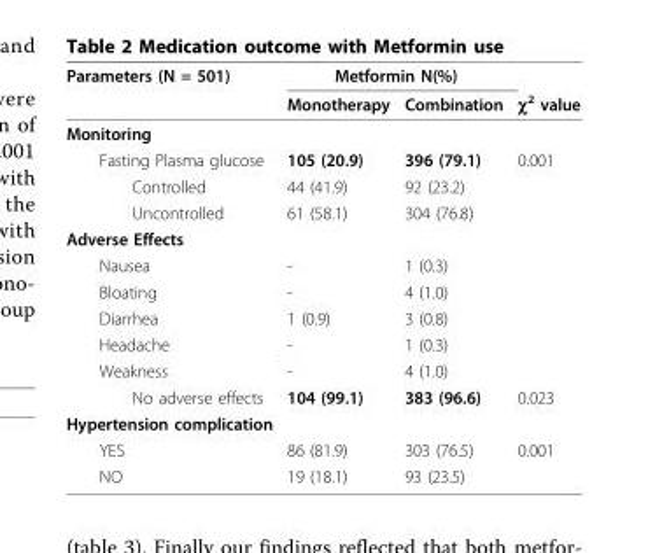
<table><thead><tr><td rowspan="2">Parameters (N = 501)</td><td colspan="2">Metformin N(%)</td><td rowspan="2">χ<sup>2</sup> value</td></tr><tr><td>Monotherapy</td><td>Combination</td></tr></thead><tbody><tr><td colspan="4">Monitoring</td></tr><tr><td>Fasting Plasma glucose</td><td>105 (20.9)</td><td>396 (79.1)</td><td>0.001</td></tr><tr><td>Controlled</td><td>44 (41.9)</td><td>92 (23.2)</td><td></td></tr><tr><td>Uncontrolled</td><td>61 (58.1)</td><td>304 (76.8)</td><td></td></tr><tr><td colspan="4">Adverse Effects</td></tr><tr><td>Nausea</td><td>-</td><td>1 (0.3)</td><td></td></tr><tr><td>Bloating</td><td>-</td><td>4 (1.0)</td><td></td></tr><tr><td>Diarrhea</td><td>1 (0.9)</td><td>3 (0.8)</td><td></td></tr><tr><td>Headache</td><td>-</td><td>1 (0.3)</td><td></td></tr><tr><td>Weakness</td><td>-</td><td>4 (1.0)</td><td></td></tr><tr><td>No adverse effects</td><td>104 (99.1)</td><td>383 (96.6)</td><td>0.023</td></tr><tr><td colspan="4">Hypertension complication</td></tr><tr><td>YES</td><td>86 (81.9)</td><td>303 (76.5)</td><td>0.001</td></tr><tr><td>NO</td><td>19 (18.1)</td><td>93 (23.5)</td><td></td></tr></tbody></table>